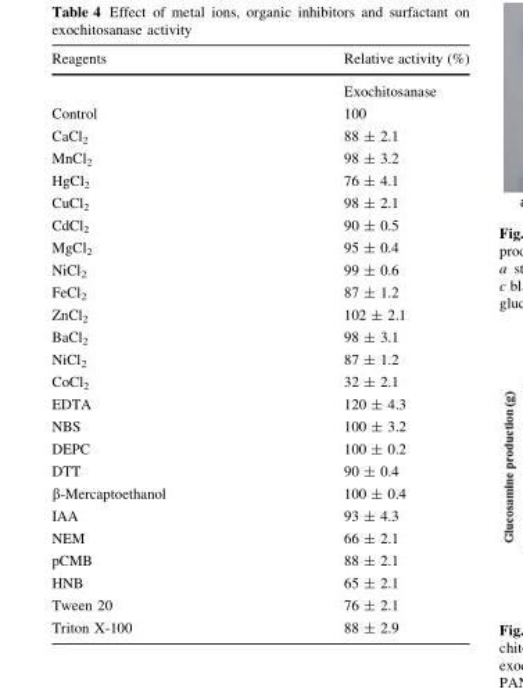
<table><thead><tr><td>Reagents</td><td>Relative activity (%)</td></tr></thead><tbody><tr><td></td><td>Exochitosanase</td></tr><tr><td>Control</td><td>100</td></tr><tr><td>CaCl<sub>2</sub></td><td>88 ± 2.1</td></tr><tr><td>MnCl<sub>2</sub></td><td>98 ± 3.2</td></tr><tr><td>HgCl<sub>2</sub></td><td>76 ± 4.1</td></tr><tr><td>CuCl<sub>2</sub></td><td>98 ± 2.1</td></tr><tr><td>CdCl<sub>2</sub></td><td>90 ± 0.5</td></tr><tr><td>MgCl<sub>2</sub></td><td>95 ± 0.4</td></tr><tr><td>NiCl<sub>2</sub></td><td>99 ± 0.6</td></tr><tr><td>FeCl<sub>2</sub></td><td>87 ± 1.2</td></tr><tr><td>ZnCl<sub>2</sub></td><td>102 ± 2.1</td></tr><tr><td>BaCl<sub>2</sub></td><td>98 ± 3.1</td></tr><tr><td>NiCl<sub>2</sub></td><td>87 ± 1.2</td></tr><tr><td>CoCl<sub>2</sub></td><td>32 ± 2.1</td></tr><tr><td>EDTA</td><td>120 ± 4.3</td></tr><tr><td>NBS</td><td>100 ± 3.2</td></tr><tr><td>DEPC</td><td>100 ± 0.2</td></tr><tr><td>DTT</td><td>90 ± 0.4</td></tr><tr><td>β-Mercaptoethanol</td><td>100 ± 0.4</td></tr><tr><td>IAA</td><td>93 ± 4.3</td></tr><tr><td>NEM</td><td>66 ± 2.1</td></tr><tr><td>pCMB</td><td>88 ± 2.1</td></tr><tr><td>HNB</td><td>65 ± 2.1</td></tr><tr><td>Tween 20</td><td>76 ± 2.1</td></tr><tr><td>Triton X-100</td><td>88 ± 2.9</td></tr></tbody></table>